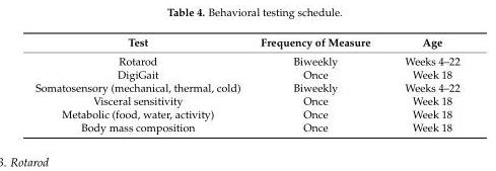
<table><thead><tr><td>Test</td><td>Frequency of Measure</td><td>Age</td></tr></thead><tbody><tr><td>Rotarod</td><td>Biweekly</td><td>Weeks 4–22</td></tr><tr><td>DigiGait</td><td>Once</td><td>Week 18</td></tr><tr><td>Somatosensory (mechanical, thermal, cold)</td><td>Biweekly</td><td>Weeks 4–22</td></tr><tr><td>Visceral sensitivity</td><td>Once</td><td>Week 18</td></tr><tr><td>Metabolic (food, water, activity)</td><td>Once</td><td>Week 18</td></tr><tr><td>Body mass composition</td><td>Once</td><td>Week 18</td></tr></tbody></table>